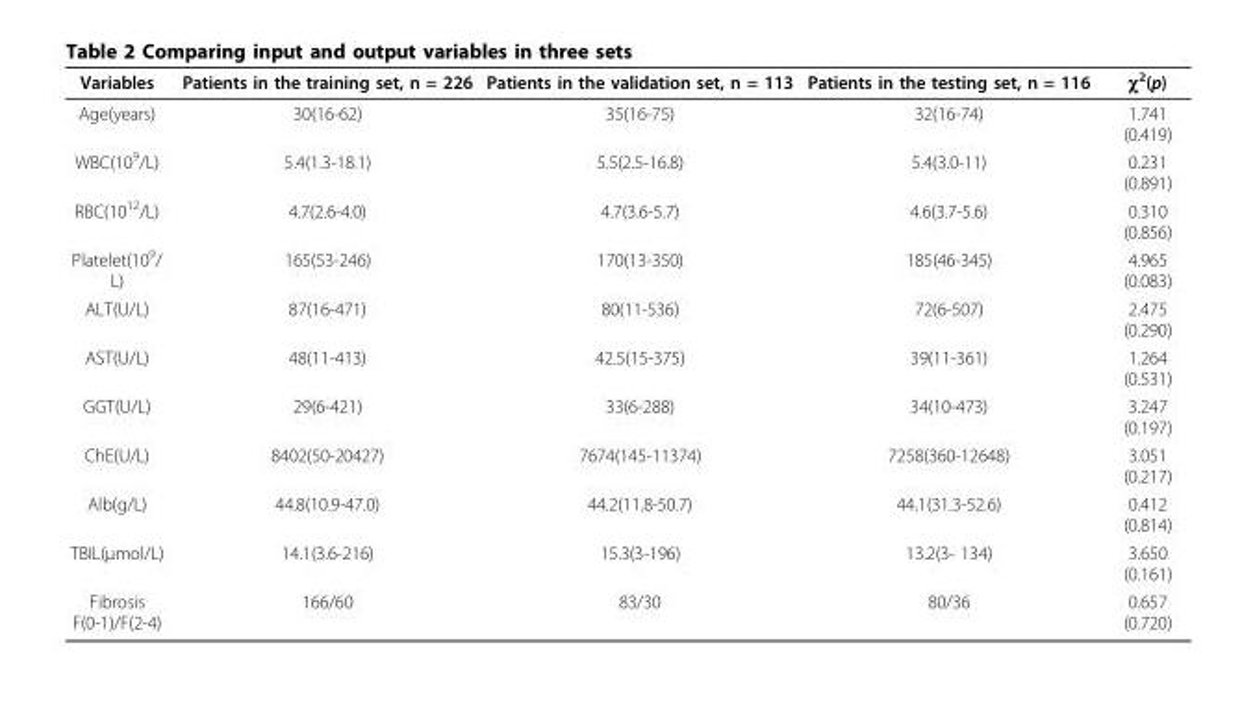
<table><thead><tr><td>Variables</td><td>Patients in the training set, n = 226</td><td>Patients in the validation set, n = 113</td><td>Patients in the testing set, n = 116</td><td>χ<sup>2</sup>(p)</td></tr></thead><tbody><tr><td>Age(years)</td><td>30(16-62)</td><td>35(16-75)</td><td>32(16-74)</td><td>1.741 (0.419)</td></tr><tr><td>WBC(10<sup>9</sup>/L)</td><td>5.4(1.3-18.1)</td><td>5.5(2.5-16.8)</td><td>5.4(3.0-11)</td><td>0.231 (0.891)</td></tr><tr><td>RBC(10<sup>12</sup>/L)</td><td>4.7(2.6-4.0)</td><td>4.7(3.6-5.7)</td><td>4.6(3.7-5.6)</td><td>0.310 (0.856)</td></tr><tr><td>Platelet(10<sup>9</sup>/ L)</td><td>165(53-246)</td><td>170(13-350)</td><td>185(46-345)</td><td>4.965 (0.083)</td></tr><tr><td>ALT(U/L)</td><td>87(16-471)</td><td>80(11-536)</td><td>72(6-507)</td><td>2.475 (0.290)</td></tr><tr><td>AST(U/L)</td><td>48(11-413)</td><td>42.5(15-375)</td><td>39(11-361)</td><td>1.264 (0.531)</td></tr><tr><td>GGT(U/L)</td><td>29(6-421)</td><td>33(6-288)</td><td>34(10-473)</td><td>3.247 (0.197)</td></tr><tr><td>ChE(U/L)</td><td>8402(50-20427)</td><td>7674(145-11374)</td><td>7258(360-12648)</td><td>3.051 (0.217)</td></tr><tr><td>Alb(g/L)</td><td>44.8(10.9-47.0)</td><td>44.2(11.8-50.7)</td><td>44.1(31.3-52.6)</td><td>0.412 (0.814)</td></tr><tr><td>TBIL(μmol/L)</td><td>14.1(3.6-216)</td><td>15.3(3-196)</td><td>13.2(3- 134)</td><td>3.650 (0.161)</td></tr><tr><td>Fibrosis F(0-1)/F(2-4)</td><td>166/60</td><td>83/30</td><td>80/36</td><td>0.657 (0.720)</td></tr></tbody></table>